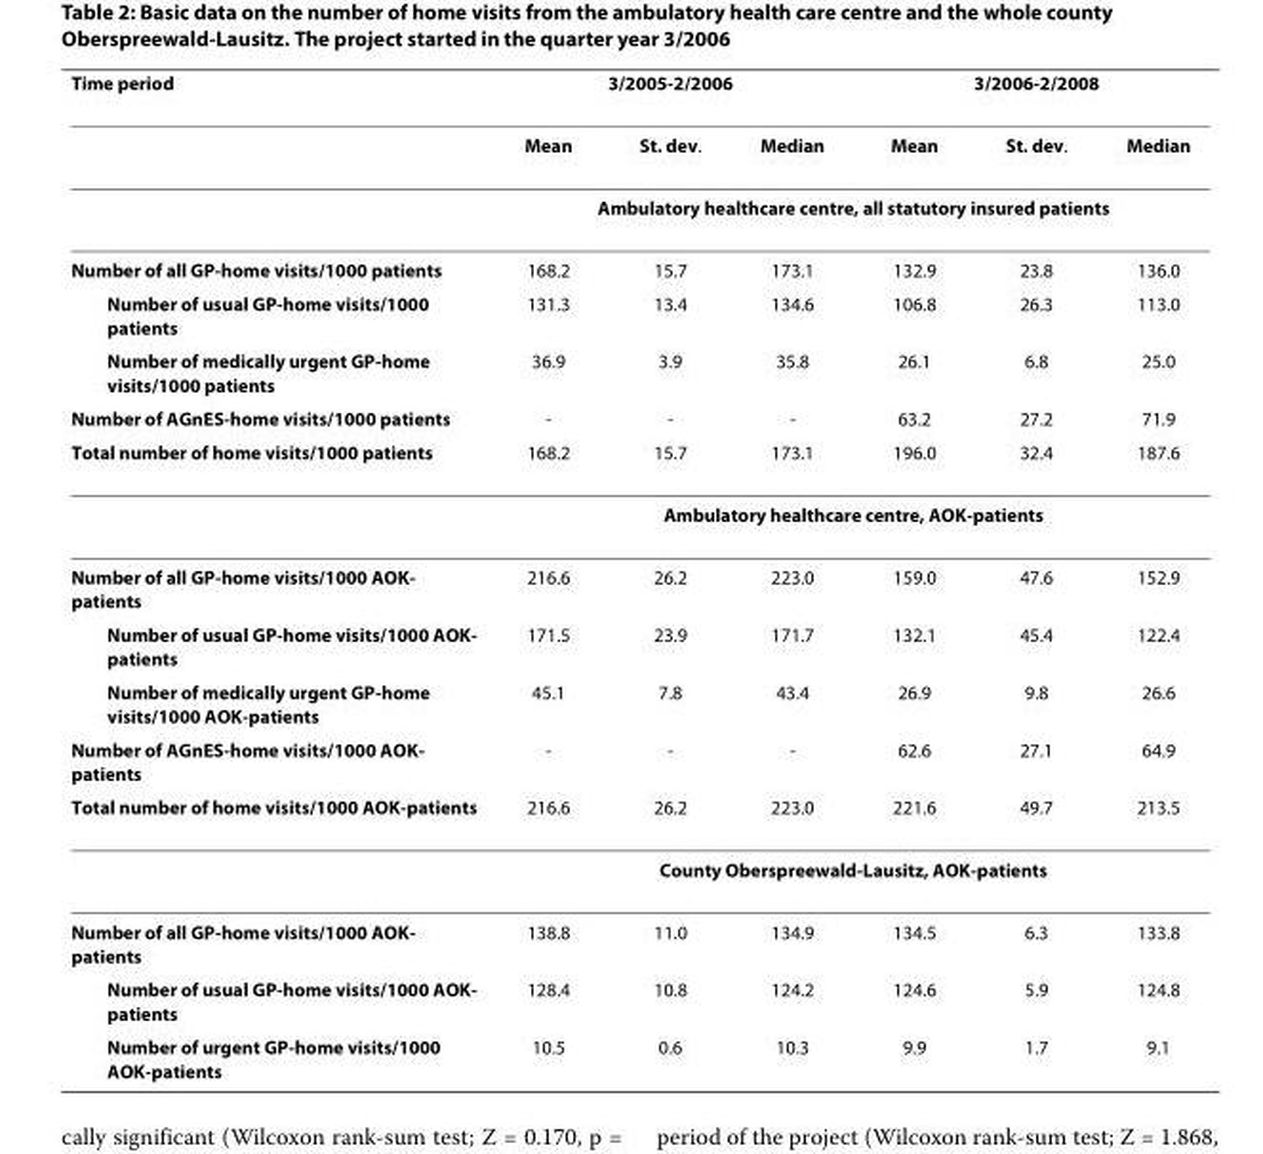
<table><thead><tr><td rowspan="2">Time period</td><td colspan="3">3/2005-2/2006</td><td colspan="3">3/2006-2/2008</td></tr><tr><td>Mean</td><td>St. dev.</td><td>Median</td><td>Mean</td><td>St. dev.</td><td>Median</td></tr></thead><tbody><tr><td></td><td colspan="6">Ambulatory healthcare centre, all statutory insured patients</td></tr><tr><td>Number of all GP-home visits/1000 patients</td><td>168.2</td><td>15.7</td><td>173.1</td><td>132.9</td><td>23.8</td><td>136.0</td></tr><tr><td>Number of usual GP-home visits/1000 patients</td><td>131.3</td><td>13.4</td><td>134.6</td><td>106.8</td><td>26.3</td><td>113.0</td></tr><tr><td>Number of medically urgent GP-home visits/1000 patients</td><td>36.9</td><td>3.9</td><td>35.8</td><td>26.1</td><td>6.8</td><td>25.0</td></tr><tr><td>Number of AGnES-home visits/1000 patients</td><td>-</td><td>-</td><td>-</td><td>63.2</td><td>27.2</td><td>71.9</td></tr><tr><td rowspan="2">Total number of home visits/1000 patients</td><td>168.2</td><td>15.7</td><td>173.1</td><td>196.0</td><td>32.4</td><td>187.6</td></tr><tr><td colspan="6">Ambulatory healthcare centre, AOK-patients</td></tr><tr><td>Number of all GP-home visits/1000 AOK- patients</td><td>216.6</td><td>26.2</td><td>223.0</td><td>159.0</td><td>47.6</td><td>152.9</td></tr><tr><td>Number of usual GP-home visits/1000 AOK- patients</td><td>171.5</td><td>23.9</td><td>171.7</td><td>132.1</td><td>45.4</td><td>122.4</td></tr><tr><td>Number of medically urgent GP-home visits/1000 AOK-patients</td><td>45.1</td><td>7.8</td><td>43.4</td><td>26.9</td><td>9.8</td><td>26.6</td></tr><tr><td>Number of AGnES-home visits/1000 AOK- patients</td><td>-</td><td>-</td><td>-</td><td>62.6</td><td>27.1</td><td>64.9</td></tr><tr><td rowspan="2">Total number of home visits/1000 AOK-patients</td><td>216.6</td><td>26.2</td><td>223.0</td><td>221.6</td><td>49.7</td><td>213.5</td></tr><tr><td colspan="6">County Oberspreewald-Lausitz, AOK-patients</td></tr><tr><td>Number of all GP-home visits/1000 AOK- patients</td><td>138.8</td><td>11.0</td><td>134.9</td><td>134.5</td><td>6.3</td><td>133.8</td></tr><tr><td>Number of usual GP-home visits/1000 AOK- patients</td><td>128.4</td><td>10.8</td><td>124.2</td><td>124.6</td><td>5.9</td><td>124.8</td></tr><tr><td>Number of urgent GP-home visits/1000 AOK-patients</td><td>10.5</td><td>0.6</td><td>10.3</td><td>9.9</td><td>1.7</td><td>9.1</td></tr></tbody></table>